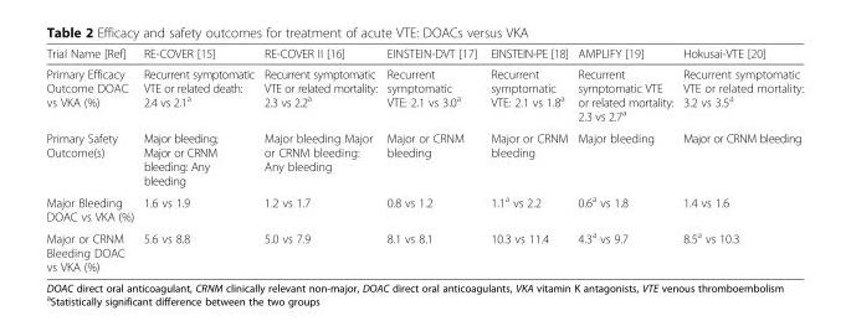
<table><thead><tr><td>Trial Name [Ref]</td><td>RE-COVER [15]</td><td>RE-COVER II [16]</td><td>EINSTEIN-DVT [17]</td><td>EINSTEIN-PE [18]</td><td>AMPLIFY [19]</td><td>Hokusai-VTE [20]</td></tr></thead><tbody><tr><td>Primary Efficacy Outcome DOAC vs VKA (%)</td><td>Recurrent symptomatic VTE or related death: 2.4 vs 2.1<sup>a</sup></td><td>Recurrent symptomatic VTE or related mortality: 2.3 vs 2.2<sup>a</sup></td><td>Recurrent symptomatic VTE: 2.1 vs 3.0<sup>a</sup></td><td>Recurrent symptomatic VTE: 2.1 vs 1.8<sup>a</sup></td><td>Recurrent symptomatic VTE or related mortality: 2.3 vs 2.7<sup>a</sup></td><td>Recurrent symptomatic VTE or related mortality: 3.2 vs 3.5<sup>a</sup></td></tr><tr><td>Primary Safety Outcome(s)</td><td>Major bleeding; Major or CRNM bleeding: Any bleeding</td><td>Major bleeding Major or CRNM bleeding: Any bleeding</td><td>Major or CRNM bleeding</td><td>Major or CRNM bleeding</td><td>Major bleeding</td><td>Major or CRNM bleeding</td></tr><tr><td>Major Bleeding DOAC vs VKA (%)</td><td>1.6 vs 1.9</td><td>1.2 vs 1.7</td><td>0.8 vs 1.2</td><td>1.1<sup>a</sup> vs 2.2</td><td>0.6<sup>a</sup> vs 1.8</td><td>1.4 vs 1.6</td></tr><tr><td>Major or CRNM Bleeding DOAC vs VKA (%)</td><td>5.6 vs 8.8</td><td>5.0 vs 7.9</td><td>8.1 vs 8.1</td><td>10.3 vs 11.4</td><td>4.3<sup>a</sup> vs 9.7</td><td>8.5<sup>a</sup> vs 10.3</td></tr></tbody></table>